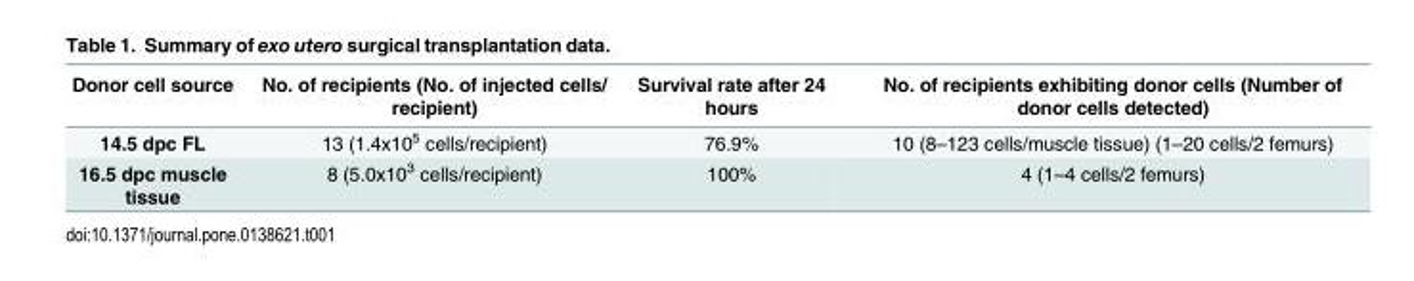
<table><thead><tr><td>Donor cell source</td><td>No. of recipients (No. of injected cells/ recipient)</td><td>Survival rate after 24 hours</td><td>No. of recipients exhibiting donor cells (Number of donor cells detected)</td></tr></thead><tbody><tr><td>14.5 dpc FL</td><td>13 (1.4x10<sup>5</sup> cells/recipient)</td><td>76.9%</td><td>10 (8–123 cells/muscle tissue) (1–20 cells/2 femurs)</td></tr><tr><td>16.5 dpc muscle tissue</td><td>8 (5.0x10<sup>3</sup> cells/recipient)</td><td>100%</td><td>4 (1–4 cells/2 femurs)</td></tr></tbody></table>